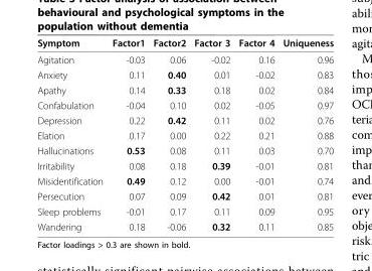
<table><thead><tr><td>Symptom</td><td>Factor1</td><td>Factor2</td><td>Factor 3</td><td>Factor 4</td><td>Uniqueness</td></tr></thead><tbody><tr><td>Agitation</td><td>-0.03</td><td>0.06</td><td>-0.02</td><td>0.16</td><td>0.96</td></tr><tr><td>Anxiety</td><td>0.11</td><td>0.40</td><td>0.01</td><td>-0.02</td><td>0.83</td></tr><tr><td>Apathy</td><td>0.14</td><td>0.33</td><td>0.18</td><td>0.02</td><td>0.84</td></tr><tr><td>Confabulation</td><td>-0.04</td><td>0.10</td><td>0.02</td><td>-0.05</td><td>0.97</td></tr><tr><td>Depression</td><td>0.22</td><td>0.42</td><td>0.11</td><td>0.02</td><td>0.76</td></tr><tr><td>Elation</td><td>0.17</td><td>0.00</td><td>0.22</td><td>0.21</td><td>0.88</td></tr><tr><td>Hallucinations</td><td>0.53</td><td>0.08</td><td>0.11</td><td>0.03</td><td>0.70</td></tr><tr><td>Irritability</td><td>0.08</td><td>0.18</td><td>0.39</td><td>-0.01</td><td>0.81</td></tr><tr><td>Misidentification</td><td>0.49</td><td>0.12</td><td>0.00</td><td>-0.01</td><td>0.74</td></tr><tr><td>Persecution</td><td>0.07</td><td>0.09</td><td>0.42</td><td>0.01</td><td>0.81</td></tr><tr><td>Sleep problems</td><td>-0.01</td><td>0.17</td><td>0.11</td><td>0.09</td><td>0.95</td></tr><tr><td>Wandering</td><td>0.18</td><td>-0.06</td><td>0.32</td><td>0.11</td><td>0.85</td></tr></tbody></table>